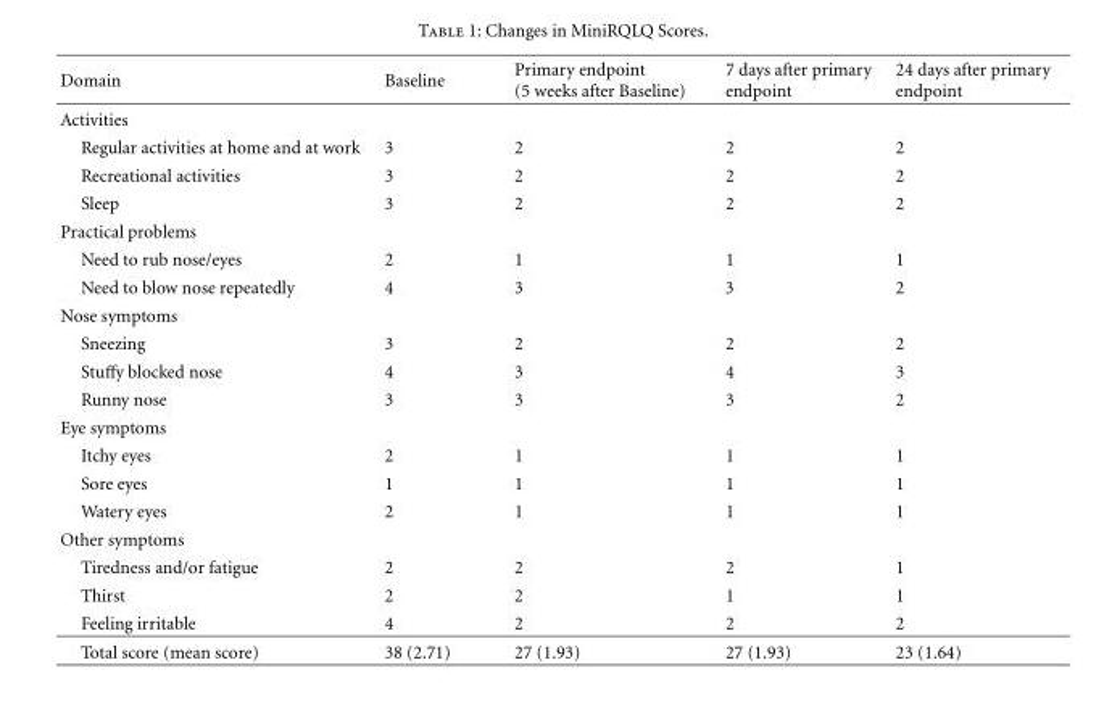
<table><thead><tr><td>Domain</td><td>Baseline</td><td>Primary endpoint (5 weeks after Baseline)</td><td>7 days after primary endpoint</td><td>24 days after primary endpoint</td></tr></thead><tbody><tr><td colspan="5">Activities</td></tr><tr><td>Regular activities at home and at work</td><td>3</td><td>2</td><td>2</td><td>2</td></tr><tr><td>Recreational activities</td><td>3</td><td>2</td><td>2</td><td>2</td></tr><tr><td>Sleep</td><td>3</td><td>2</td><td>2</td><td>2</td></tr><tr><td colspan="5">Practical problems</td></tr><tr><td>Need to rub nose/eyes</td><td>2</td><td>1</td><td>1</td><td>1</td></tr><tr><td>Need to blow nose repeatedly</td><td>4</td><td>3</td><td>3</td><td>2</td></tr><tr><td colspan="5">Nose symptoms</td></tr><tr><td>Sneezing</td><td>3</td><td>2</td><td>2</td><td>2</td></tr><tr><td>Stuffy blocked nose</td><td>4</td><td>3</td><td>4</td><td>3</td></tr><tr><td>Runny nose</td><td>3</td><td>3</td><td>3</td><td>2</td></tr><tr><td colspan="5">Eye symptoms</td></tr><tr><td>Itchy eyes</td><td>2</td><td>1</td><td>1</td><td>1</td></tr><tr><td>Sore eyes</td><td>1</td><td>1</td><td>1</td><td>1</td></tr><tr><td>Watery eyes</td><td>2</td><td>1</td><td>1</td><td>1</td></tr><tr><td colspan="5">Other symptoms</td></tr><tr><td>Tiredness and/or fatigue</td><td>2</td><td>2</td><td>2</td><td>1</td></tr><tr><td>Thirst</td><td>2</td><td>2</td><td>1</td><td>1</td></tr><tr><td>Feeling irritable</td><td>4</td><td>2</td><td>2</td><td>2</td></tr><tr><td>Total score (mean score)</td><td>38 (2.71)</td><td>27 (1.93)</td><td>27 (1.93)</td><td>23 (1.64)</td></tr></tbody></table>